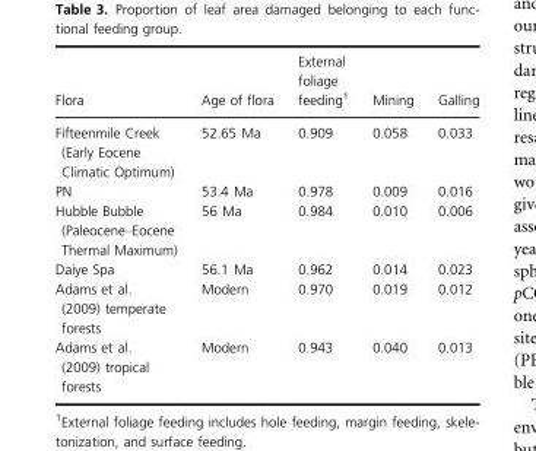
<table><thead><tr><td>Flora</td><td>Age of flora</td><td>External foliage feeding1</td><td>Mining</td><td>Galling</td></tr></thead><tbody><tr><td>Fifteenmile Creek (Early Eocene Climatic Optimum)</td><td>52.65 Ma</td><td>0.909</td><td>0.058</td><td>0.033</td></tr><tr><td>PN</td><td>53.4 Ma</td><td>0.978</td><td>0.009</td><td>0.016</td></tr><tr><td>Hubble Bubble (Paleocene–Eocene Thermal Maximum)</td><td>56 Ma</td><td>0.984</td><td>0.010</td><td>0.006</td></tr><tr><td>Daiye Spa</td><td>56.1 Ma</td><td>0.962</td><td>0.014</td><td>0.023</td></tr><tr><td>Adams et al. (2009) temperate forests</td><td>Modern</td><td>0.970</td><td>0.019</td><td>0.012</td></tr><tr><td>Adams et al. (2009) tropical forests</td><td>Modern</td><td>0.943</td><td>0.040</td><td>0.013</td></tr></tbody></table>